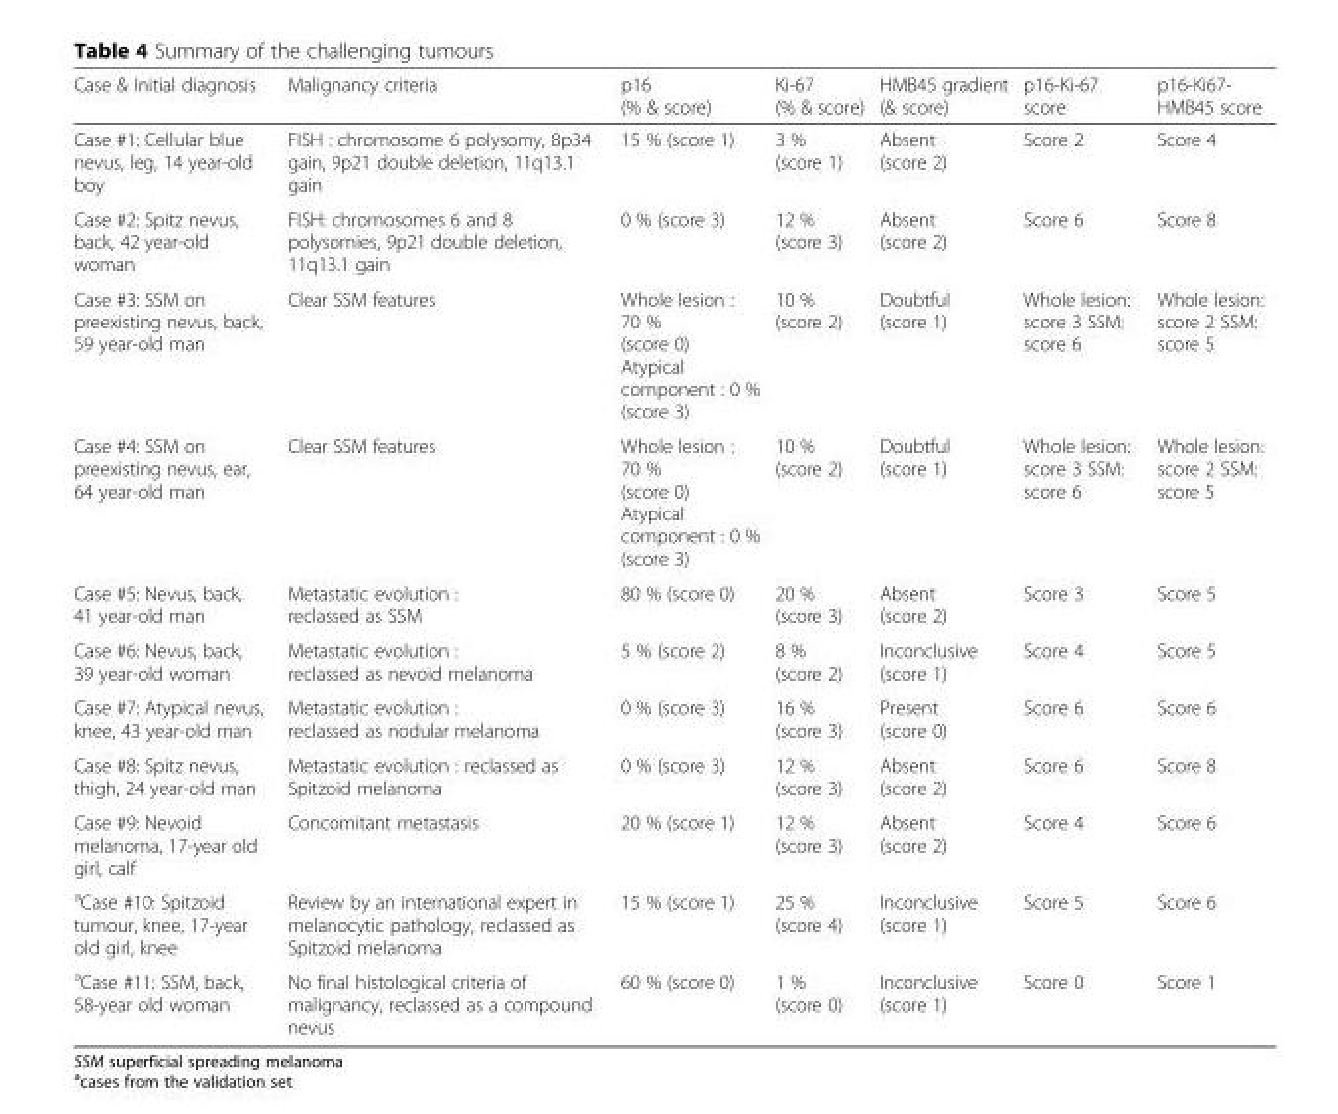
<table><thead><tr><td>Case &amp; Initial diagnosis</td><td>Malignancy criteria</td><td>p16 (% &amp; score)</td><td>Ki-67 (% &amp; score)</td><td>HMB45 gradient (&amp; score)</td><td>p16-Ki-67 score</td><td>p16-Ki67- HMB45 score</td></tr></thead><tbody><tr><td>Case #1: Cellular blue nevus, leg, 14 year-old boy</td><td>FISH : chromosome 6 polysomy, 8p34 gain, 9p21 double deletion, 11q13.1 gain</td><td>15 % (score 1)</td><td>3 % (score 1)</td><td>Absent (score 2)</td><td>Score 2</td><td>Score 4</td></tr><tr><td>Case #2: Spitz nevus, back, 42 year-old woman</td><td>FISH: chromosomes 6 and 8 polysomies, 9p21 double deletion, 11q13.1 gain</td><td>0 % (score 3)</td><td>12 % (score 3)</td><td>Absent (score 2)</td><td>Score 6</td><td>Score 8</td></tr><tr><td>Case #3: SSM on preexisting nevus, back, 59 year-old man</td><td>Clear SSM features</td><td>Whole lesion : 70 % (score 0) Atypical component : 0 % (score 3)</td><td>10 % (score 2)</td><td>Doubtful (score 1)</td><td>Whole lesion: score 3 SSM: score 6</td><td>Whole lesion: score 2 SSM: score 5</td></tr><tr><td>Case #4: SSM on preexisting nevus, ear, 64 year-old man</td><td>Clear SSM features</td><td>Whole lesion : 70 % (score 0) Atypical component : 0 % (score 3)</td><td>10 % (score 2)</td><td>Doubtful (score 1)</td><td>Whole lesion: score 3 SSM: score 6</td><td>Whole lesion: score 2 SSM: score 5</td></tr><tr><td>Case #5: Nevus, back, 41 year-old man</td><td>Metastatic evolution : reclassed as SSM</td><td>80 % (score 0)</td><td>20 % (score 3)</td><td>Absent (score 2)</td><td>Score 3</td><td>Score 5</td></tr><tr><td>Case #6: Nevus, back, 39 year-old woman</td><td>Metastatic evolution : reclassed as nevoid melanoma</td><td>5 % (score 2)</td><td>8 % (score 2)</td><td>Inconclusive (score 1)</td><td>Score 4</td><td>Score 5</td></tr><tr><td>Case #7: Atypical nevus, knee, 43 year-old man</td><td>Metastatic evolution : reclassed as nodular melanoma</td><td>0 % (score 3)</td><td>16 % (score 3)</td><td>Present (score 0)</td><td>Score 6</td><td>Score 6</td></tr><tr><td>Case #8: Spitz nevus, thigh, 24 year-old man</td><td>Metastatic evolution : reclassed as Spitzoid melanoma</td><td>0 % (score 3)</td><td>12 % (score 3)</td><td>Absent (score 2)</td><td>Score 6</td><td>Score 8</td></tr><tr><td>Case #9: Nevoid melanoma, 17-year old girl, calf</td><td>Concomitant metastasis</td><td>20 % (score 1)</td><td>12 % (score 3)</td><td>Absent (score 2)</td><td>Score 4</td><td>Score 6</td></tr><tr><td><sup>a</sup>Case #10: Spitzoid tumour, knee, 17-year old girl, knee</td><td>Review by an international expert in melanocytic pathology, reclassed as Spitzoid melanoma</td><td>15 % (score 1)</td><td>25 % (score 4)</td><td>Inconclusive (score 1)</td><td>Score 5</td><td>Score 6</td></tr><tr><td><sup>a</sup>Case #11: SSM, back, 58-year old woman</td><td>No final histological criteria of malignancy, reclassed as a compound nevus</td><td>60 % (score 0)</td><td>1 % (score 0)</td><td>Inconclusive (score 1)</td><td>Score 0</td><td>Score 1</td></tr></tbody></table>